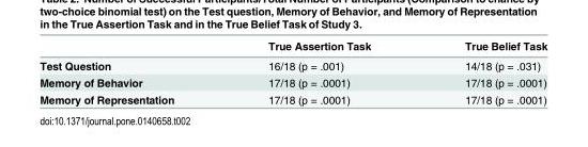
<table><thead><tr><td></td><td>True Assertion Task</td><td>True Belief Task</td></tr></thead><tbody><tr><td>Test Question</td><td>16/18 (p = .001)</td><td>14/18 (p = .031)</td></tr><tr><td>Memory of Behavior</td><td>17/18 (p = .0001)</td><td>17/18 (p = .0001)</td></tr><tr><td>Memory of Representation</td><td>17/18 (p = .0001)</td><td>17/18 (p = .0001)</td></tr></tbody></table>